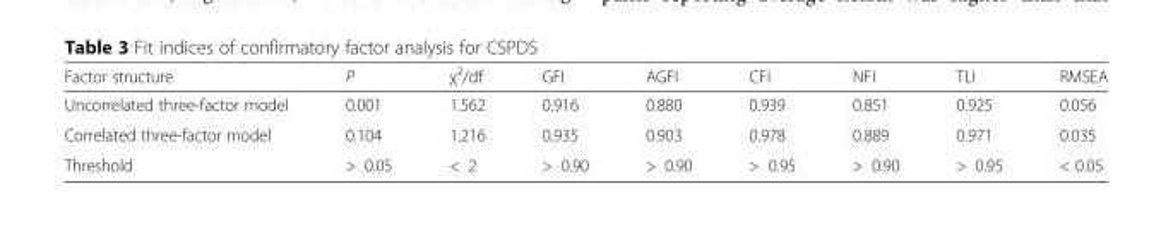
<table><thead><tr><td>Factor structure</td><td>P</td><td>χ<sup>2</sup>/df</td><td>GFI</td><td>AGFI</td><td>CFI</td><td>NFI</td><td>TLI</td><td>RMSEA</td></tr></thead><tbody><tr><td>Uncorrelated three-factor model</td><td>0.001</td><td>1.562</td><td>0.916</td><td>0.880</td><td>0.939</td><td>0.851</td><td>0.925</td><td>0.056</td></tr><tr><td>Correlated three-factor model</td><td>0.104</td><td>1.216</td><td>0.935</td><td>0.903</td><td>0.978</td><td>0.889</td><td>0.971</td><td>0.035</td></tr><tr><td>Threshold</td><td>&gt; 0.05</td><td>&lt; 2</td><td>&gt; 0.90</td><td>&gt; 0.90</td><td>&gt; 0.95</td><td>&gt; 0.90</td><td>&gt; 0.95</td><td>&lt; 0.05</td></tr></tbody></table>